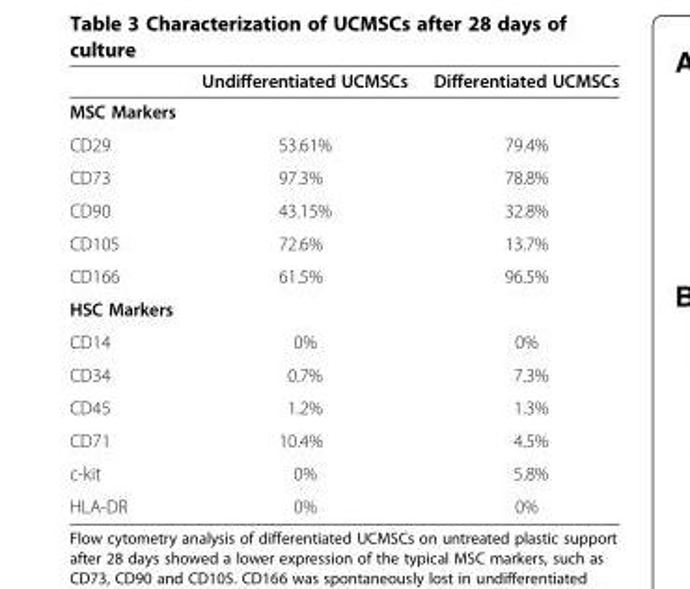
<table><thead><tr><td></td><td>Undifferentiated UCMSCs</td><td>Differentiated UCMSCs</td></tr></thead><tbody><tr><td colspan="3">MSC Markers</td></tr><tr><td>CD29</td><td>53.61%</td><td>79.4%</td></tr><tr><td>CD73</td><td>97.3%</td><td>78.8%</td></tr><tr><td>CD90</td><td>43.15%</td><td>32.8%</td></tr><tr><td>CD105</td><td>72.6%</td><td>13.7%</td></tr><tr><td>CD166</td><td>61.5%</td><td>96.5%</td></tr><tr><td colspan="3">HSC Markers</td></tr><tr><td>CD14</td><td>0%</td><td>0%</td></tr><tr><td>CD34</td><td>0.7%</td><td>7.3%</td></tr><tr><td>CD45</td><td>1.2%</td><td>1.3%</td></tr><tr><td>CD71</td><td>10.4%</td><td>4.5%</td></tr><tr><td>c-kit</td><td>0%</td><td>5.8%</td></tr><tr><td>HLA-DR</td><td>0%</td><td>0%</td></tr></tbody></table>